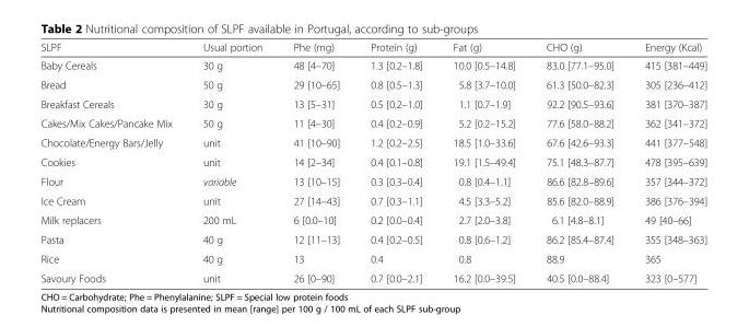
<table><thead><tr><td>SLPF</td><td>Usual portion</td><td>Phe (mg)</td><td>Protein (g)</td><td>Fat (g)</td><td>CHO (g)</td><td>Energy (Kcal)</td></tr></thead><tbody><tr><td>Baby Cereals</td><td>30 g</td><td>48 [4–70]</td><td>1.3 [0.2–1.8]</td><td>10.0 [0.5–14.8]</td><td>83.0 [77.1–95.0]</td><td>415 [381–449]</td></tr><tr><td>Bread</td><td>50 g</td><td>29 [10–65]</td><td>0.8 [0.5–1.3]</td><td>5.8 [3.7–10.0]</td><td>61.3 [50.0–82.3]</td><td>305 [236–412]</td></tr><tr><td>Breakfast Cereals</td><td>30 g</td><td>13 [5–31]</td><td>0.5 [0.2–1.0]</td><td>1.1 [0.7–1.9]</td><td>92.2 [90.5–93.6]</td><td>381 [370–387]</td></tr><tr><td>Cakes/Mix Cakes/Pancake Mix</td><td>50 g</td><td>11 [4–30]</td><td>0.4 [0.2–0.9]</td><td>5.2 [0.2–15.2]</td><td>77.6 [58.0–88.2]</td><td>362 [341–372]</td></tr><tr><td>Chocolate/Energy Bars/Jelly</td><td>unit</td><td>41 [10–90]</td><td>1.2 [0.2–2.5]</td><td>18.5 [1.0–33.6]</td><td>67.6 [42.6–93.3]</td><td>441 [377–548]</td></tr><tr><td>Cookies</td><td>unit</td><td>14 [2–34]</td><td>0.4 [0.1–0.8]</td><td>19.1 [1.5–49.4]</td><td>75.1 [48.3–87.7]</td><td>478 [395–639]</td></tr><tr><td>Flour</td><td>variable</td><td>13 [10–15]</td><td>0.3 [0.3–0.4]</td><td>0.8 [0.4–1.1]</td><td>86.6 [82.8–89.6]</td><td>357 [344–372]</td></tr><tr><td>Ice Cream</td><td>unit</td><td>27 [14–43]</td><td>0.7 [0.3–1.1]</td><td>4.5 [3.3–5.2]</td><td>85.6 [82.0–88.9]</td><td>386 [376–394]</td></tr><tr><td>Milk replacers</td><td>200 mL</td><td>6 [0.0–10]</td><td>0.2 [0.0–0.4]</td><td>2.7 [2.0–3.8]</td><td>6.1 [4.8–8.1]</td><td>49 [40–66]</td></tr><tr><td>Pasta</td><td>40 g</td><td>12 [11–13]</td><td>0.4 [0.2–0.5]</td><td>0.8 [0.6–1.2]</td><td>86.2 [85.4–87.4]</td><td>355 [348–363]</td></tr><tr><td>Rice</td><td>40 g</td><td>13</td><td>0.4</td><td>0.8</td><td>88.9</td><td>365</td></tr><tr><td>Savoury Foods</td><td>unit</td><td>26 [0–90]</td><td>0.7 [0.0–2.1]</td><td>16.2 [0.0–39.5]</td><td>40.5 [0.0–88.4]</td><td>323 [0–577]</td></tr></tbody></table>